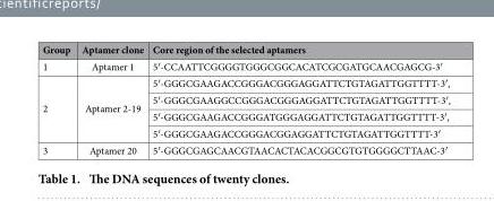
<table><thead><tr><td>Group</td><td>Aptamer clone</td><td>Core region of the selected aptamers</td></tr></thead><tbody><tr><td>1</td><td>Aptamer 1</td><td>5′ -CCAATTCGGGGTGGGCGGCACATCGCGATGCAACGAGCG-3′</td></tr><tr><td rowspan="4">2</td><td rowspan="4">Aptamer 2-19</td><td>5′ -GGGCGAAGACCGGGACGGGAGGATTCTGTAGATTGGTTTT-3′ ,</td></tr><tr><td>5′ -GGGCGAAGGCCGGGACGGGAGGATTCTGTAGATTGGTTTT-3′ ,</td></tr><tr><td>5′ -GGGCGAAGACCGGGATGGGAGGATTCTGTAGATTGGTTTT-3′ ,</td></tr><tr><td>5′ -GGGCGAAGACCGGGACGGAGGATTCTGTAGATTGGTTTT-3′</td></tr><tr><td>3</td><td>Aptamer 20</td><td>5′ -GGGCGAGCAACGTAACACTACACGGCGTGTGGGGCTTAAC-3′</td></tr></tbody></table>